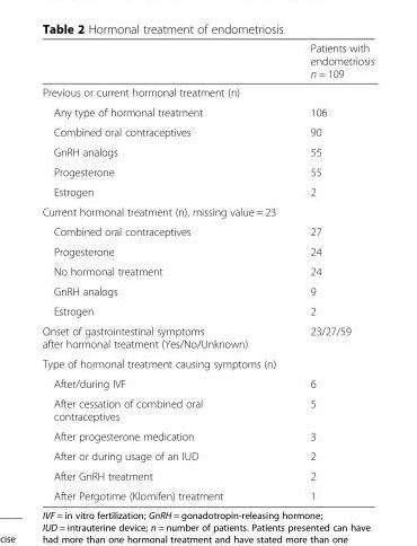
<table><thead><tr><td></td><td>Patients with endometriosis n = 109</td></tr></thead><tbody><tr><td colspan="2">Previous or current hormonal treatment (n)</td></tr><tr><td>Any type of hormonal treatment</td><td>106</td></tr><tr><td>Combined oral contraceptives</td><td>90</td></tr><tr><td>GnRH analogs</td><td>55</td></tr><tr><td>Progesterone</td><td>55</td></tr><tr><td>Estrogen</td><td>2</td></tr><tr><td colspan="2">Current hormonal treatment (n), missing value = 23</td></tr><tr><td>Combined oral contraceptives</td><td>27</td></tr><tr><td>Progesterone</td><td>24</td></tr><tr><td>No hormonal treatment</td><td>24</td></tr><tr><td>GnRH analogs</td><td>9</td></tr><tr><td>Estrogen</td><td>2</td></tr><tr><td>Onset of gastrointestinal symptoms after hormonal treatment (Yes/No/Unknown)</td><td>23/27/59</td></tr><tr><td colspan="2">Type of hormonal treatment causing symptoms (n)</td></tr><tr><td>After/during IVF</td><td>6</td></tr><tr><td>After cessation of combined oral contraceptives</td><td>5</td></tr><tr><td>After progesterone medication</td><td>3</td></tr><tr><td>After or during usage of an IUD</td><td>2</td></tr><tr><td>After GnRH treatment</td><td>2</td></tr><tr><td>After Pergotime (Klomifen) treatment</td><td>1</td></tr></tbody></table>